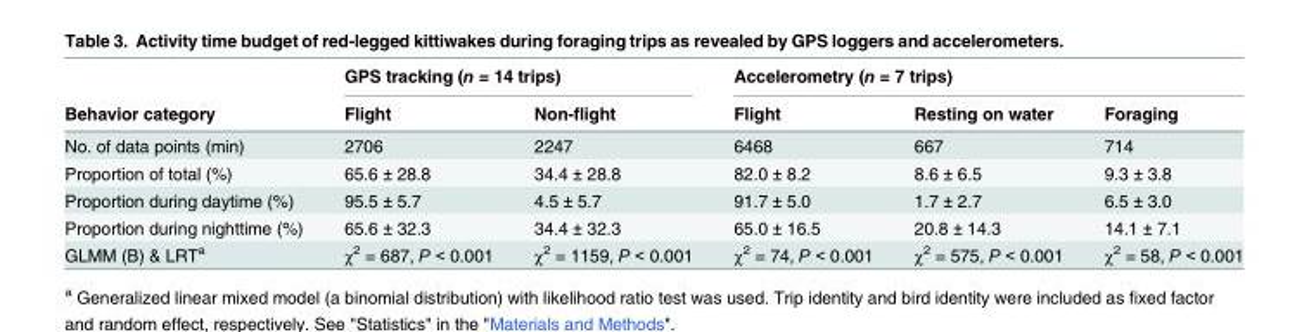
<table><thead><tr><td rowspan="2">Behavior category</td><td colspan="2">GPS tracking (n = 14 trips)</td><td colspan="3">Accelerometry (n = 7 trips)</td></tr><tr><td>Flight</td><td>Non-flight</td><td>Flight</td><td>Resting on water</td><td>Foraging</td></tr></thead><tbody><tr><td>No. of data points (min)</td><td>2706</td><td>2247</td><td>6468</td><td>667</td><td>714</td></tr><tr><td>Proportion of total (%)</td><td>65.6 ± 28.8</td><td>34.4 ± 28.8</td><td>82.0 ± 8.2</td><td>8.6 ± 6.5</td><td>9.3 ± 3.8</td></tr><tr><td>Proportion during daytime (%)</td><td>95.5 ± 5.7</td><td>4.5 ± 5.7</td><td>91.7 ± 5.0</td><td>1.7 ± 2.7</td><td>6.5 ± 3.0</td></tr><tr><td>Proportion during nighttime (%)</td><td>65.6 ± 32.3</td><td>34.4 ± 32.3</td><td>65.0 ± 16.5</td><td>20.8 ± 14.3</td><td>14.1 ± 7.1</td></tr><tr><td>GLMM (B) &amp; LRT<sup>a</sup></td><td>χ<sup>2</sup> = 687, P &lt; 0.001</td><td>χ<sup>2</sup> = 1159, P &lt; 0.001</td><td>χ<sup>2</sup> = 74, P &lt; 0.001</td><td>χ<sup>2</sup> = 575, P &lt; 0.001</td><td>χ<sup>2</sup> = 58, P &lt; 0.001</td></tr></tbody></table>